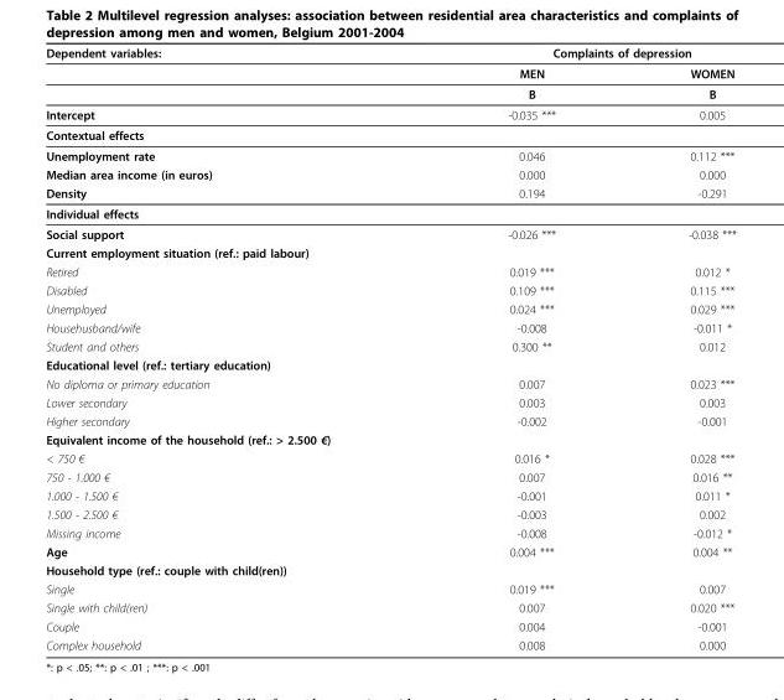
<table><thead><tr><td rowspan="2">Dependent variables:</td><td colspan="2">Complaints of depression</td></tr><tr><td>MEN</td><td>WOMEN</td></tr></thead><tbody><tr><td></td><td>B</td><td>B</td></tr><tr><td>Intercept</td><td>-0.035 ***</td><td>0.005</td></tr><tr><td colspan="3">Contextual effects</td></tr><tr><td>Unemployment rate</td><td>0.046</td><td>0.112 ***</td></tr><tr><td>Median area income (in euros)</td><td>0.000</td><td>0.000</td></tr><tr><td>Density</td><td>0.194</td><td>-0.291</td></tr><tr><td colspan="3">Individual effects</td></tr><tr><td>Social support</td><td>-0.026 ***</td><td>-0.038 ***</td></tr><tr><td colspan="3">Current employment situation (ref.: paid labour)</td></tr><tr><td>Retired</td><td>0.019 ***</td><td>0.012 *</td></tr><tr><td>Disabled</td><td>0.109 ***</td><td>0.115 ***</td></tr><tr><td>Unemployed</td><td>0.024 ***</td><td>0.029 ***</td></tr><tr><td>Househusband/wife</td><td>-0.008</td><td>-0.011 *</td></tr><tr><td>Student and others</td><td>0.300 **</td><td>0.012</td></tr><tr><td colspan="3">Educational level (ref.: tertiary education)</td></tr><tr><td>No diploma or primary education</td><td>0.007</td><td>0.023 ***</td></tr><tr><td>Lower secondary</td><td>0.003</td><td>0.003</td></tr><tr><td>Higher secondary</td><td>-0.002</td><td>-0.001</td></tr><tr><td colspan="3">Equivalent income of the household (ref.: &gt; 2.500 €)</td></tr><tr><td>&lt; 750 €</td><td>0.016 *</td><td>0.028 ***</td></tr><tr><td>750 - 1.000 €</td><td>0.007</td><td>0.016 **</td></tr><tr><td>1.000 - 1.500 €</td><td>-0.001</td><td>0.011 *</td></tr><tr><td>1.500 - 2.500 €</td><td>-0.003</td><td>0.002</td></tr><tr><td>Missing income</td><td>-0.008</td><td>-0.012 *</td></tr><tr><td>Age</td><td>0.004 ***</td><td>0.004 **</td></tr><tr><td colspan="3">Household type (ref.: couple with child(ren))</td></tr><tr><td>Single</td><td>0.019 ***</td><td>0.007</td></tr><tr><td>Single with child(ren)</td><td>0.007</td><td>0.020 ***</td></tr><tr><td>Couple</td><td>0.004</td><td>-0.001</td></tr><tr><td>Complex household</td><td>0.008</td><td>0.000</td></tr></tbody></table>